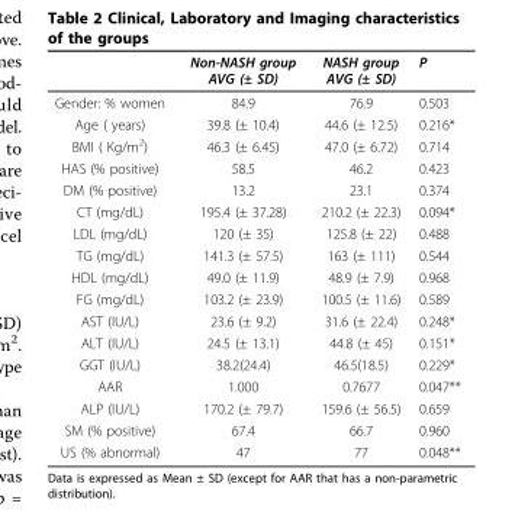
<table><thead><tr><td></td><td>Non-NASH group AVG (± SD)</td><td>NASH group AVG (± SD)</td><td>P</td></tr></thead><tbody><tr><td>Gender: % women</td><td>84.9</td><td>76.9</td><td>0.503</td></tr><tr><td>Age ( years)</td><td>39.8 (± 10.4)</td><td>44.6 (± 12.5)</td><td>0.216*</td></tr><tr><td>BMI ( Kg/m<sup>2</sup>)</td><td>46.3 (± 6.45)</td><td>47.0 (± 6.72)</td><td>0.714</td></tr><tr><td>HAS (% positive)</td><td>58.5</td><td>46.2</td><td>0.423</td></tr><tr><td>DM (% positive)</td><td>13.2</td><td>23.1</td><td>0.374</td></tr><tr><td>CT (mg/dL)</td><td>195.4 (± 37.28)</td><td>210.2 (± 22.3)</td><td>0.094*</td></tr><tr><td>LDL (mg/dL)</td><td>120 (± 35)</td><td>125.8 (± 22)</td><td>0.488</td></tr><tr><td>TG (mg/dL)</td><td>141.3 (± 57.5)</td><td>163 (± 111)</td><td>0.544</td></tr><tr><td>HDL (mg/dL)</td><td>49.0 (± 11.9)</td><td>48.9 (± 7.9)</td><td>0.968</td></tr><tr><td>FG (mg/dL)</td><td>103.2 (± 23.9)</td><td>100.5 (± 11.6)</td><td>0.589</td></tr><tr><td>AST (IU/L)</td><td>23.6 (± 9.2)</td><td>31.6 (± 22.4)</td><td>0.248*</td></tr><tr><td>ALT (IU/L)</td><td>24.5 (± 13.1)</td><td>44.8 (± 45)</td><td>0.151*</td></tr><tr><td>GGT (IU/L)</td><td>38.2(24.4)</td><td>46.5(18.5)</td><td>0.229*</td></tr><tr><td>AAR</td><td>1.000</td><td>0.7677</td><td>0.047**</td></tr><tr><td>ALP (IU/L)</td><td>170.2 (± 79.7)</td><td>159.6 (± 56.5)</td><td>0.659</td></tr><tr><td>SM (% positive)</td><td>67.4</td><td>66.7</td><td>0.960</td></tr><tr><td>US (% abnormal)</td><td>47</td><td>77</td><td>0.048**</td></tr></tbody></table>